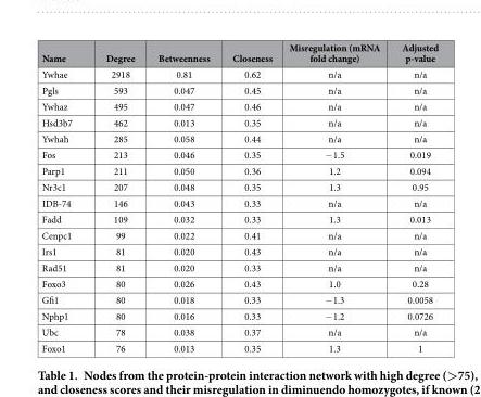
<table><thead><tr><td>Name</td><td>Degree</td><td>Betweenness</td><td>Closeness</td><td>Misregulation (mRNA fold change)</td><td>Adjusted p-value</td></tr></thead><tbody><tr><td>Ywhae</td><td>2918</td><td>0.81</td><td>0.62</td><td>n/a</td><td>n/a</td></tr><tr><td>Pgls</td><td>593</td><td>0.047</td><td>0.45</td><td>n/a</td><td>n/a</td></tr><tr><td>Ywhaz</td><td>495</td><td>0.047</td><td>0.46</td><td>n/a</td><td>n/a</td></tr><tr><td>Hsd3b7</td><td>462</td><td>0.013</td><td>0.35</td><td>n/a</td><td>n/a</td></tr><tr><td>Ywhah</td><td>285</td><td>0.058</td><td>0.44</td><td>n/a</td><td>n/a</td></tr><tr><td>Fos</td><td>213</td><td>0.046</td><td>0.35</td><td>− 1.5</td><td>0.019</td></tr><tr><td>Parp1</td><td>211</td><td>0.050</td><td>0.36</td><td>1.2</td><td>0.094</td></tr><tr><td>Nr3c1</td><td>207</td><td>0.048</td><td>0.35</td><td>1.3</td><td>0.95</td></tr><tr><td>IDB-74</td><td>146</td><td>0.043</td><td>0.33</td><td>n/a</td><td>n/a</td></tr><tr><td>Fadd</td><td>109</td><td>0.032</td><td>0.33</td><td>1.3</td><td>0.013</td></tr><tr><td>Cenpc1</td><td>99</td><td>0.022</td><td>0.41</td><td>n/a</td><td>n/a</td></tr><tr><td>Irs1</td><td>81</td><td>0.020</td><td>0.43</td><td>n/a</td><td>n/a</td></tr><tr><td>Rad51</td><td>81</td><td>0.020</td><td>0.33</td><td>n/a</td><td>n/a</td></tr><tr><td>Foxo3</td><td>80</td><td>0.026</td><td>0.43</td><td>1.0</td><td>0.28</td></tr><tr><td>Gfi1</td><td>80</td><td>0.018</td><td>0.33</td><td>− 1.3</td><td>0.0058</td></tr><tr><td>Nphp1</td><td>80</td><td>0.016</td><td>0.33</td><td>− 1.2</td><td>0.0726</td></tr><tr><td>Ubc</td><td>78</td><td>0.038</td><td>0.37</td><td>n/a</td><td>n/a</td></tr><tr><td>Foxo1</td><td>76</td><td>0.013</td><td>0.35</td><td>1.3</td><td>1</td></tr></tbody></table>